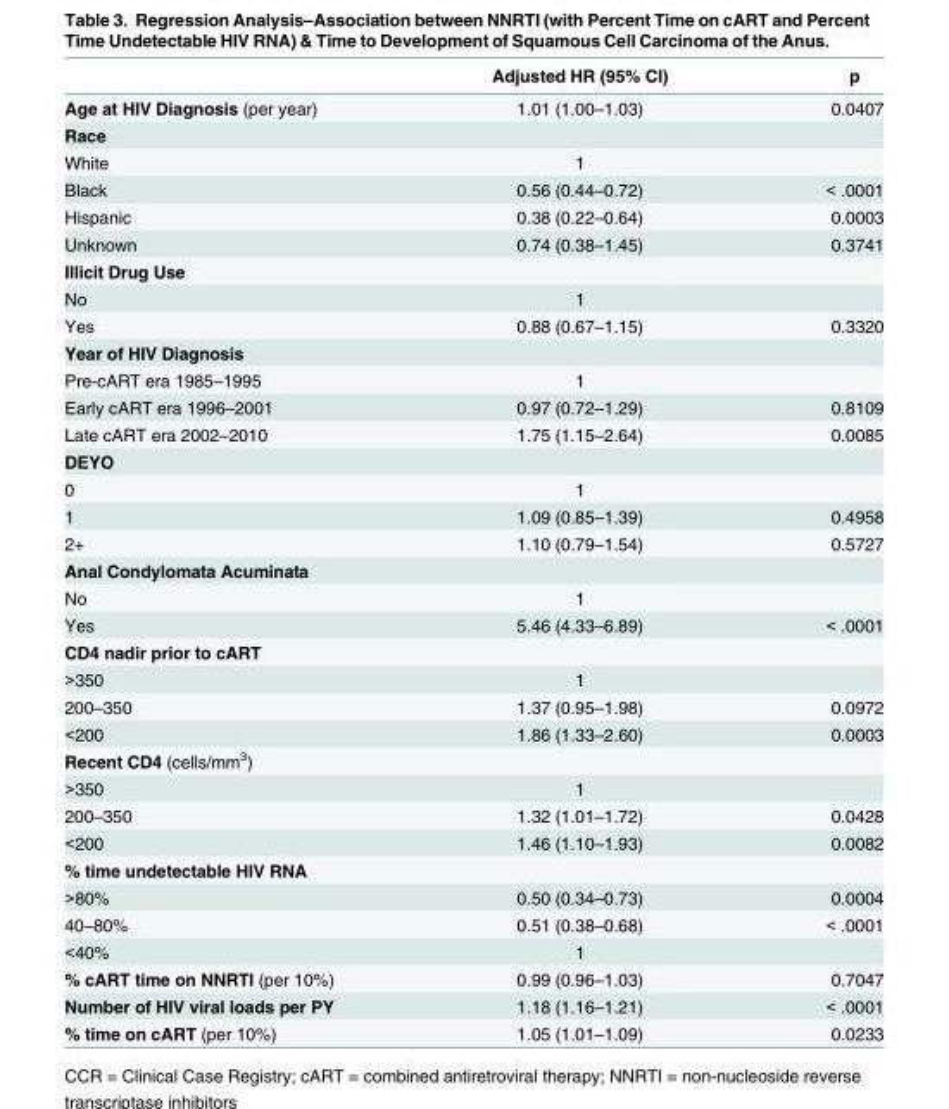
<table><thead><tr><td></td><td>Adjusted HR (95% CI)</td><td>p</td></tr></thead><tbody><tr><td>Age at HIV Diagnosis (per year)</td><td>1.01 (1.00–1.03)</td><td>0.0407</td></tr><tr><td colspan="3">Race</td></tr><tr><td>White</td><td>1</td><td></td></tr><tr><td>Black</td><td>0.56 (0.44–0.72)</td><td>&lt; .0001</td></tr><tr><td>Hispanic</td><td>0.38 (0.22–0.64)</td><td>0.0003</td></tr><tr><td>Unknown</td><td>0.74 (0.38–1.45)</td><td>0.3741</td></tr><tr><td colspan="3">Illicit Drug Use</td></tr><tr><td>No</td><td>1</td><td></td></tr><tr><td>Yes</td><td>0.88 (0.67–1.15)</td><td>0.3320</td></tr><tr><td colspan="3">Year of HIV Diagnosis</td></tr><tr><td>Pre-cART era 1985–1995</td><td>1</td><td></td></tr><tr><td>Early cART era 1996–2001</td><td>0.97 (0.72–1.29)</td><td>0.8109</td></tr><tr><td>Late cART era 2002–2010</td><td>1.75 (1.15–2.64)</td><td>0.0085</td></tr><tr><td colspan="3">DEYO</td></tr><tr><td>0</td><td>1</td><td></td></tr><tr><td>1</td><td>1.09 (0.85–1.39)</td><td>0.4958</td></tr><tr><td>2+</td><td>1.10 (0.79–1.54)</td><td>0.5727</td></tr><tr><td colspan="3">Anal Condylomata Acuminata</td></tr><tr><td>No</td><td>1</td><td></td></tr><tr><td>Yes</td><td>5.46 (4.33–6.89)</td><td>&lt; .0001</td></tr><tr><td colspan="3">CD4 nadir prior to cART</td></tr><tr><td>&gt;350</td><td>1</td><td></td></tr><tr><td>200–350</td><td>1.37 (0.95–1.98)</td><td>0.0972</td></tr><tr><td>&lt;200</td><td>1.86 (1.33–2.60)</td><td>0.0003</td></tr><tr><td colspan="3">Recent CD4 (cells/mm<sup>3</sup>)</td></tr><tr><td>&gt;350</td><td>1</td><td></td></tr><tr><td>200–350</td><td>1.32 (1.01–1.72)</td><td>0.0428</td></tr><tr><td>&lt;200</td><td>1.46 (1.10–1.93)</td><td>0.0082</td></tr><tr><td colspan="3">% time undetectable HIV RNA</td></tr><tr><td>&gt;80%</td><td>0.50 (0.34–0.73)</td><td>0.0004</td></tr><tr><td>40–80%</td><td>0.51 (0.38–0.68)</td><td>&lt; .0001</td></tr><tr><td>&lt;40%</td><td>1</td><td></td></tr><tr><td>% cART time on NNRTI (per 10%)</td><td>0.99 (0.96–1.03)</td><td>0.7047</td></tr><tr><td>Number of HIV viral loads per PY</td><td>1.18 (1.16–1.21)</td><td>&lt; .0001</td></tr><tr><td>% time on cART (per 10%)</td><td>1.05 (1.01–1.09)</td><td>0.0233</td></tr></tbody></table>